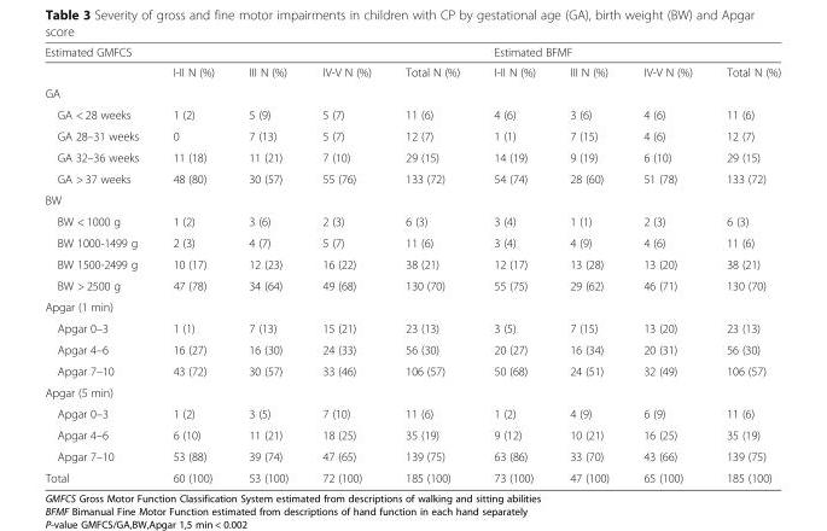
<table><thead><tr><td colspan="5">Estimated GMFCS</td><td colspan="4">Estimated BFMF</td></tr><tr><td></td><td>I-II N (%)</td><td>III N (%)</td><td>IV-V N (%)</td><td>Total N (%)</td><td>I-II N (%)</td><td>III N (%)</td><td>IV-V N (%)</td><td>Total N (%)</td></tr></thead><tbody><tr><td colspan="9">GA</td></tr><tr><td>GA &lt; 28 weeks</td><td>1 (2)</td><td>5 (9)</td><td>5 (7)</td><td>11 (6)</td><td>4 (6)</td><td>3 (6)</td><td>4 (6)</td><td>11 (6)</td></tr><tr><td>GA 28–31 weeks</td><td>0</td><td>7 (13)</td><td>5 (7)</td><td>12 (7)</td><td>1 (1)</td><td>7 (15)</td><td>4 (6)</td><td>12 (7)</td></tr><tr><td>GA 32–36 weeks</td><td>11 (18)</td><td>11 (21)</td><td>7 (10)</td><td>29 (15)</td><td>14 (19)</td><td>9 (19)</td><td>6 (10)</td><td>29 (15)</td></tr><tr><td>GA &gt; 37 weeks</td><td>48 (80)</td><td>30 (57)</td><td>55 (76)</td><td>133 (72)</td><td>54 (74)</td><td>28 (60)</td><td>51 (78)</td><td>133 (72)</td></tr><tr><td colspan="9">BW</td></tr><tr><td>BW &lt; 1000 g</td><td>1 (2)</td><td>3 (6)</td><td>2 (3)</td><td>6 (3)</td><td>3 (4)</td><td>1 (1)</td><td>2 (3)</td><td>6 (3)</td></tr><tr><td>BW 1000-1499 g</td><td>2 (3)</td><td>4 (7)</td><td>5 (7)</td><td>11 (6)</td><td>3 (4)</td><td>4 (9)</td><td>4 (6)</td><td>11 (6)</td></tr><tr><td>BW 1500-2499 g</td><td>10 (17)</td><td>12 (23)</td><td>16 (22)</td><td>38 (21)</td><td>12 (17)</td><td>13 (28)</td><td>13 (20)</td><td>38 (21)</td></tr><tr><td>BW &gt; 2500 g</td><td>47 (78)</td><td>34 (64)</td><td>49 (68)</td><td>130 (70)</td><td>55 (75)</td><td>29 (62)</td><td>46 (71)</td><td>130 (70)</td></tr><tr><td colspan="9">Apgar (1 min)</td></tr><tr><td>Apgar 0–3</td><td>1 (1)</td><td>7 (13)</td><td>15 (21)</td><td>23 (13)</td><td>3 (5)</td><td>7 (15)</td><td>13 (20)</td><td>23 (13)</td></tr><tr><td>Apgar 4–6</td><td>16 (27)</td><td>16 (30)</td><td>24 (33)</td><td>56 (30)</td><td>20 (27)</td><td>16 (34)</td><td>20 (31)</td><td>56 (30)</td></tr><tr><td>Apgar 7–10</td><td>43 (72)</td><td>30 (57)</td><td>33 (46)</td><td>106 (57)</td><td>50 (68)</td><td>24 (51)</td><td>32 (49)</td><td>106 (57)</td></tr><tr><td colspan="9">Apgar (5 min)</td></tr><tr><td>Apgar 0–3</td><td>1 (2)</td><td>3 (5)</td><td>7 (10)</td><td>11 (6)</td><td>1 (2)</td><td>4 (9)</td><td>6 (9)</td><td>11 (6)</td></tr><tr><td>Apgar 4–6</td><td>6 (10)</td><td>11 (21)</td><td>18 (25)</td><td>35 (19)</td><td>9 (12)</td><td>10 (21)</td><td>16 (25)</td><td>35 (19)</td></tr><tr><td>Apgar 7–10</td><td>53 (88)</td><td>39 (74)</td><td>47 (65)</td><td>139 (75)</td><td>63 (86)</td><td>33 (70)</td><td>43 (66)</td><td>139 (75)</td></tr><tr><td>Total</td><td>60 (100)</td><td>53 (100)</td><td>72 (100)</td><td>185 (100)</td><td>73 (100)</td><td>47 (100)</td><td>65 (100)</td><td>185 (100)</td></tr></tbody></table>